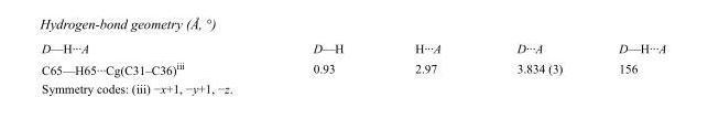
<table><tbody><tr><td>D—H···A</td><td>D—H</td><td>H···A</td><td>D···A</td><td>D—H···A</td></tr><tr><td>C65—H65···Cg(C31–C36)<sup>iii</sup></td><td>0.93</td><td>2.97</td><td>3.834 (3)</td><td>156</td></tr></tbody></table>